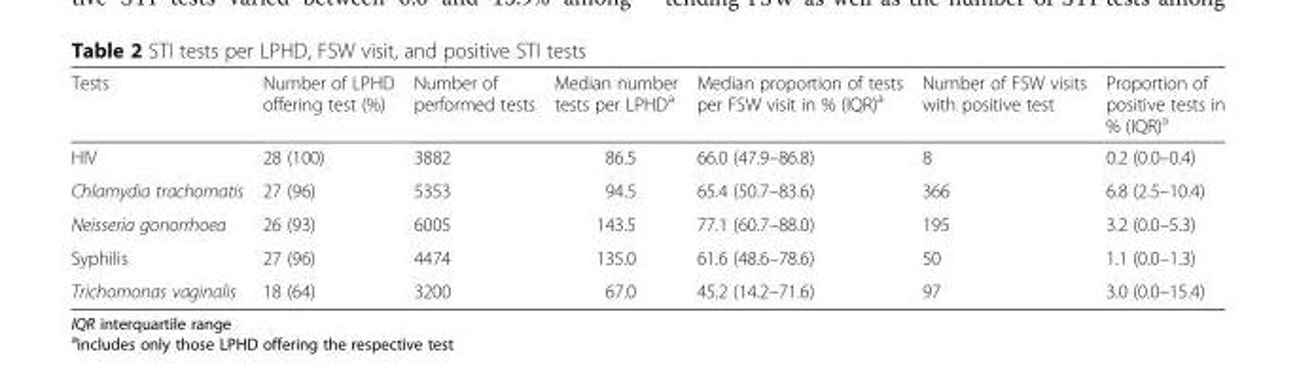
<table><thead><tr><td>Tests</td><td>Number of LPHD offering test (%)</td><td>Number of performed tests</td><td>Median number tests per LPHD<sup>a</sup></td><td>Median proportion of tests per FSW visit in % (IQR)<sup>a</sup></td><td>Number of FSW visits with positive test</td><td>Proportion of positive tests in % (IQR)<sup>a</sup></td></tr></thead><tbody><tr><td>HIV</td><td>28 (100)</td><td>3882</td><td>86.5</td><td>66.0 (47.9–86.8)</td><td>8</td><td>0.2 (0.0–0.4)</td></tr><tr><td>Chlamydia trachomatis</td><td>27 (96)</td><td>5353</td><td>94.5</td><td>65.4 (50.7–83.6)</td><td>366</td><td>6.8 (2.5–10.4)</td></tr><tr><td>Neisseria gonorrhoea</td><td>26 (93)</td><td>6005</td><td>143.5</td><td>77.1 (60.7–88.0)</td><td>195</td><td>3.2 (0.0–5.3)</td></tr><tr><td>Syphilis</td><td>27 (96)</td><td>4474</td><td>135.0</td><td>61.6 (48.6–78.6)</td><td>50</td><td>1.1 (0.0–1.3)</td></tr><tr><td>Trichomonas vaginalis</td><td>18 (64)</td><td>3200</td><td>67.0</td><td>45.2 (14.2–71.6)</td><td>97</td><td>3.0 (0.0–15.4)</td></tr></tbody></table>